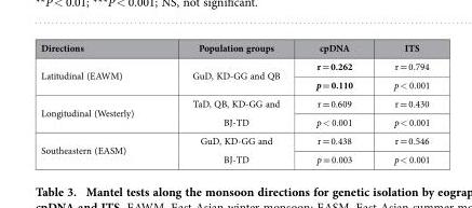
<table><thead><tr><td>Directions</td><td>Population groups</td><td>cpDNA</td><td>ITS</td></tr></thead><tbody><tr><td rowspan="2">Latitudinal (EAWM)</td><td rowspan="2">GuD, KD-GG and QB</td><td>r = 0.262</td><td>r = 0.794</td></tr><tr><td>p = 0.110</td><td>p &lt; 0.001</td></tr><tr><td rowspan="2">Longitudinal (Westerly)</td><td rowspan="2">TaD, QB, KD-GG and BJ-TD</td><td>r = 0.609</td><td>r = 0.430</td></tr><tr><td>p &lt; 0.001</td><td>p &lt; 0.001</td></tr><tr><td rowspan="2">Southeastern (EASM)</td><td rowspan="2">GuD, KD-GG and BJ-TD</td><td>r = 0.438</td><td>r = 0.546</td></tr><tr><td>p = 0.003</td><td>p &lt; 0.001</td></tr></tbody></table>